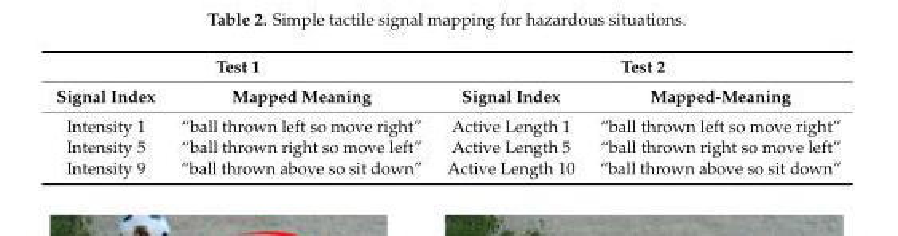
<table><thead><tr><td colspan="2">Test 1</td><td colspan="2">Test 2</td></tr><tr><td>Signal Index</td><td>Mapped Meaning</td><td>Signal Index</td><td>Mapped-Meaning</td></tr></thead><tbody><tr><td>Intensity 1</td><td>“ball thrown left so move right”</td><td>Active Length 1</td><td>“ball thrown left so move right”</td></tr><tr><td>Intensity 5</td><td>“ball thrown right so move left”</td><td>Active Length 5</td><td>“ball thrown right so move left”</td></tr><tr><td>Intensity 9</td><td>“ball thrown above so sit down”</td><td>Active Length 10</td><td>“ball thrown above so sit down”</td></tr></tbody></table>